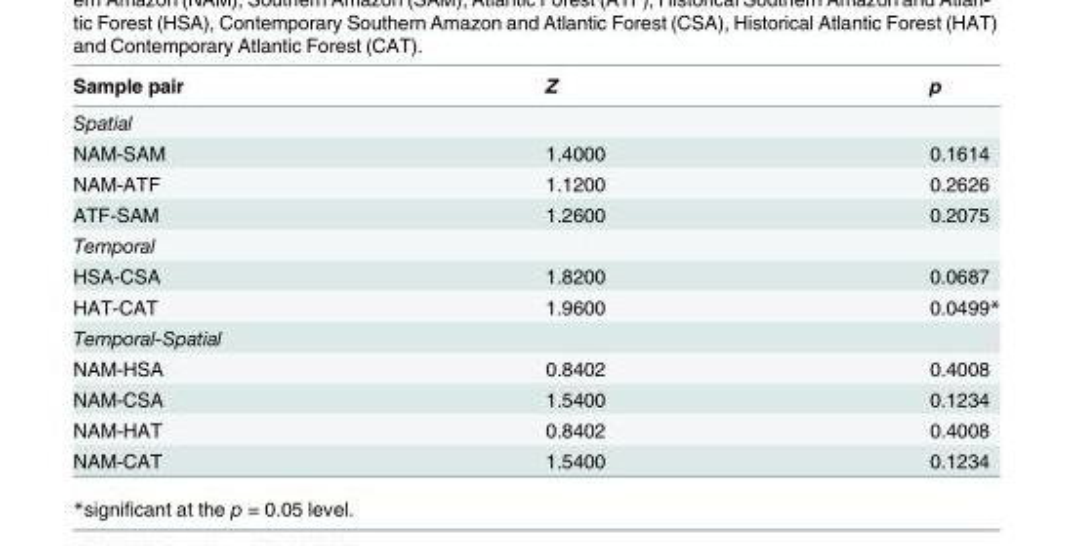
<table><thead><tr><td>Sample pair</td><td>Z</td><td>p</td></tr></thead><tbody><tr><td colspan="3">Spatial</td></tr><tr><td>NAM-SAM</td><td>1.4000</td><td>0.1614</td></tr><tr><td>NAM-ATF</td><td>1.1200</td><td>0.2626</td></tr><tr><td>ATF-SAM</td><td>1.2600</td><td>0.2075</td></tr><tr><td colspan="3">Temporal</td></tr><tr><td>HSA-CSA</td><td>1.8200</td><td>0.0687</td></tr><tr><td>HAT-CAT</td><td>1.9600</td><td>0.0499*</td></tr><tr><td colspan="3">Temporal-Spatial</td></tr><tr><td>NAM-HSA</td><td>0.8402</td><td>0.4008</td></tr><tr><td>NAM-CSA</td><td>1.5400</td><td>0.1234</td></tr><tr><td>NAM-HAT</td><td>0.8402</td><td>0.4008</td></tr><tr><td>NAM-CAT</td><td>1.5400</td><td>0.1234</td></tr></tbody></table>